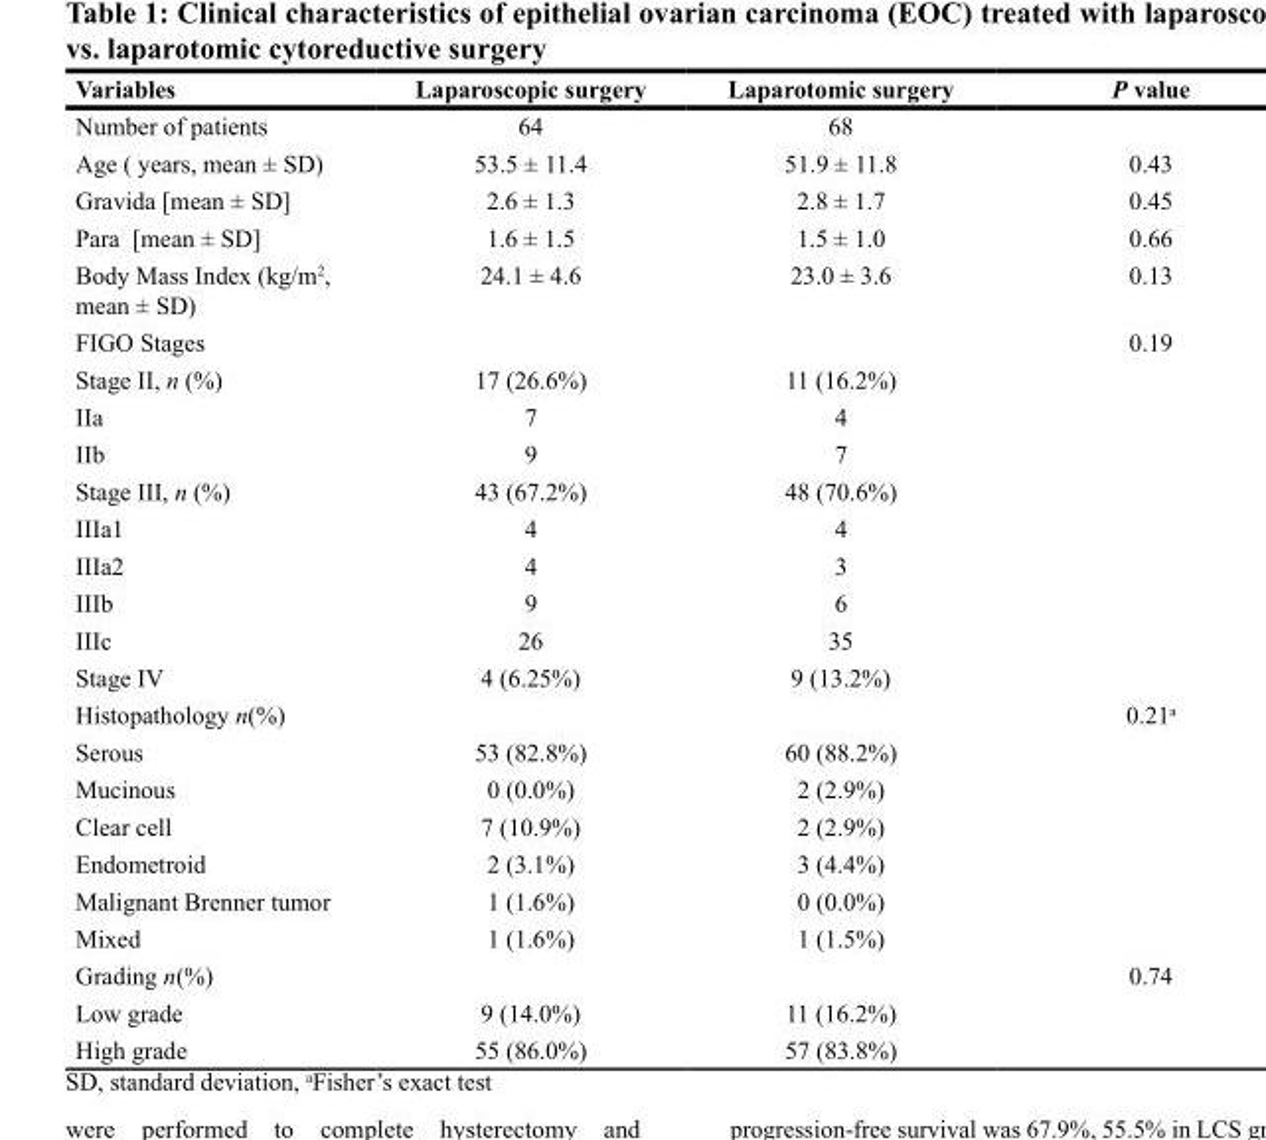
<table><thead><tr><td>Variables</td><td>Laparoscopic surgery</td><td>Laparotomic surgery</td><td>P value</td></tr></thead><tbody><tr><td>Number of patients</td><td>64</td><td>68</td><td></td></tr><tr><td>Age ( years, mean ± SD)</td><td>53.5 ± 11.4</td><td>51.9 ± 11.8</td><td>0.43</td></tr><tr><td>Gravida [mean ± SD]</td><td>2.6 ± 1.3</td><td>2.8 ± 1.7</td><td>0.45</td></tr><tr><td>Para [mean ± SD]</td><td>1.6 ± 1.5</td><td>1.5 ± 1.0</td><td>0.66</td></tr><tr><td>Body Mass Index (kg/m<sup>2</sup>, mean ± SD)</td><td>24.1 ± 4.6</td><td>23.0 ± 3.6</td><td>0.13</td></tr><tr><td>FIGO Stages</td><td></td><td></td><td>0.19</td></tr><tr><td>Stage II, n (%)</td><td>17 (26.6%)</td><td>11 (16.2%)</td><td></td></tr><tr><td>IIa</td><td>7</td><td>4</td><td></td></tr><tr><td>IIb</td><td>9</td><td>7</td><td></td></tr><tr><td>Stage III, n (%)</td><td>43 (67.2%)</td><td>48 (70.6%)</td><td></td></tr><tr><td>IIIa1</td><td>4</td><td>4</td><td></td></tr><tr><td>IIIa2</td><td>4</td><td>3</td><td></td></tr><tr><td>IIIb</td><td>9</td><td>6</td><td></td></tr><tr><td>IIIc</td><td>26</td><td>35</td><td></td></tr><tr><td>Stage IV</td><td>4 (6.25%)</td><td>9 (13.2%)</td><td></td></tr><tr><td>Histopathology n(%)</td><td></td><td></td><td>0.21<sup>a</sup></td></tr><tr><td>Serous</td><td>53 (82.8%)</td><td>60 (88.2%)</td><td></td></tr><tr><td>Mucinous</td><td>0 (0.0%)</td><td>2 (2.9%)</td><td></td></tr><tr><td>Clear cell</td><td>7 (10.9%)</td><td>2 (2.9%)</td><td></td></tr><tr><td>Endometroid</td><td>2 (3.1%)</td><td>3 (4.4%)</td><td></td></tr><tr><td>Malignant Brenner tumor</td><td>1 (1.6%)</td><td>0 (0.0%)</td><td></td></tr><tr><td>Mixed</td><td>1 (1.6%)</td><td>1 (1.5%)</td><td></td></tr><tr><td>Grading n(%)</td><td></td><td></td><td>0.74</td></tr><tr><td>Low grade</td><td>9 (14.0%)</td><td>11 (16.2%)</td><td></td></tr><tr><td>High grade</td><td>55 (86.0%)</td><td>57 (83.8%)</td><td></td></tr></tbody></table>